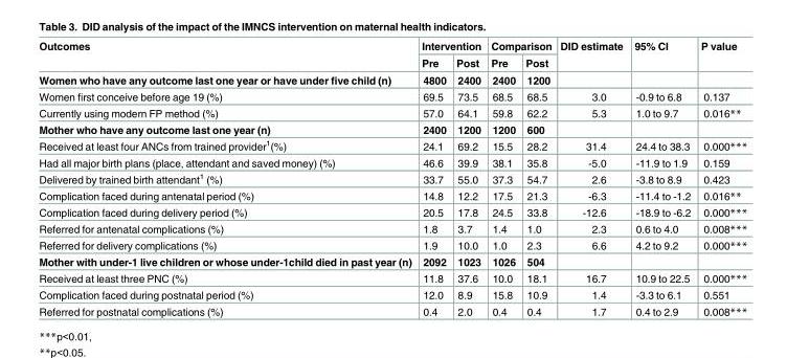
<table><thead><tr><td rowspan="2">Outcomes</td><td colspan="2">Intervention</td><td colspan="2">Comparison</td><td rowspan="2">DID estimate</td><td rowspan="2">95% CI</td><td rowspan="2">P value</td></tr><tr><td>Pre</td><td>Post</td><td>Pre</td><td>Post</td></tr></thead><tbody><tr><td>Women who have any outcome last one year or have under five child (n)</td><td>4800</td><td>2400</td><td>2400</td><td>1200</td><td></td><td></td><td></td></tr><tr><td>Women first conceive before age 19 (%)</td><td>69.5</td><td>73.5</td><td>68.5</td><td>68.5</td><td>3.0</td><td>-0.9 to 6.8</td><td>0.137</td></tr><tr><td>Currently using modern FP method (%)</td><td>57.0</td><td>64.1</td><td>59.8</td><td>62.2</td><td>5.3</td><td>1.0 to 9.7</td><td>0.016**</td></tr><tr><td>Mother who have any outcome last one year (n)</td><td>2400</td><td>1200</td><td>1200</td><td>600</td><td></td><td></td><td></td></tr><tr><td>Received at least four ANCs from trained provider<sup>1</sup>(%)</td><td>24.1</td><td>69.2</td><td>15.5</td><td>28.2</td><td>31.4</td><td>24.4 to 38.3</td><td>0.000***</td></tr><tr><td>Had all major birth plans (place, attendant and saved money) (%)</td><td>46.6</td><td>39.9</td><td>38.1</td><td>35.8</td><td>-5.0</td><td>-11.9 to 1.9</td><td>0.159</td></tr><tr><td>Delivered by trained birth attendant<sup>1</sup> (%)</td><td>33.7</td><td>55.0</td><td>37.3</td><td>54.7</td><td>2.6</td><td>-3.8 to 8.9</td><td>0.423</td></tr><tr><td>Complication faced during antenatal period (%)</td><td>14.8</td><td>12.2</td><td>17.5</td><td>21.3</td><td>-6.3</td><td>-11.4 to -1.2</td><td>0.016**</td></tr><tr><td>Complication faced during delivery period (%)</td><td>20.5</td><td>17.8</td><td>24.5</td><td>33.8</td><td>-12.6</td><td>-18.9 to -6.2</td><td>0.000***</td></tr><tr><td>Referred for antenatal complications (%)</td><td>1.8</td><td>3.7</td><td>1.4</td><td>1.0</td><td>2.3</td><td>0.6 to 4.0</td><td>0.008***</td></tr><tr><td>Referred for delivery complications (%)</td><td>1.9</td><td>10.0</td><td>1.0</td><td>2.3</td><td>6.6</td><td>4.2 to 9.2</td><td>0.000***</td></tr><tr><td>Mother with under-1 live children or whose under-1child died in past year (n)</td><td>2092</td><td>1023</td><td>1026</td><td>504</td><td></td><td></td><td></td></tr><tr><td>Received at least three PNC (%)</td><td>11.8</td><td>37.6</td><td>10.0</td><td>18.1</td><td>16.7</td><td>10.9 to 22.5</td><td>0.000***</td></tr><tr><td>Complication faced during postnatal period (%)</td><td>12.0</td><td>8.9</td><td>15.8</td><td>10.9</td><td>1.4</td><td>-3.3 to 6.1</td><td>0.551</td></tr><tr><td>Referred for postnatal complications (%)</td><td>0.4</td><td>2.0</td><td>0.4</td><td>0.4</td><td>1.7</td><td>0.4 to 2.9</td><td>0.008***</td></tr></tbody></table>